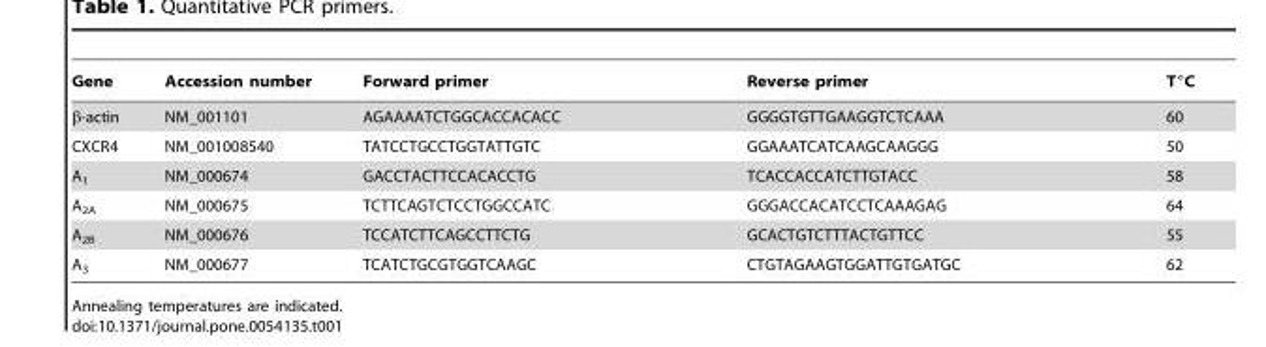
<table><thead><tr><td>Gene</td><td>Accession number</td><td>Forward primer</td><td>Reverse primer</td><td>T°C</td></tr></thead><tbody><tr><td>β-actin</td><td>NM_001101</td><td>AGAAAATCTGGCACCACACC</td><td>GGGGTGTTGAAGGTCTCAAA</td><td>60</td></tr><tr><td>CXCR4</td><td>NM_001008540</td><td>TATCCTGCCTGGTATTGTC</td><td>GGAAATCATCAAGCAAGGG</td><td>50</td></tr><tr><td>A<sub>1</sub></td><td>NM_000674</td><td>GACCTACTTCCACACCTG</td><td>TCACCACCATCTTGTACC</td><td>58</td></tr><tr><td>A<sub>2A</sub></td><td>NM_000675</td><td>TCTTCAGTCTCCTGGCCATC</td><td>GGGACCACATCCTCAAAGAG</td><td>64</td></tr><tr><td>A<sub>2B</sub></td><td>NM_000676</td><td>TCCATCTTCAGCCTTCTG</td><td>GCACTGTCTTTACTGTTCC</td><td>55</td></tr><tr><td>A<sub>3</sub></td><td>NM_000677</td><td>TCATCTGCGTGGTCAAGC</td><td>CTGTAGAAGTGGATTGTGATGC</td><td>62</td></tr></tbody></table>